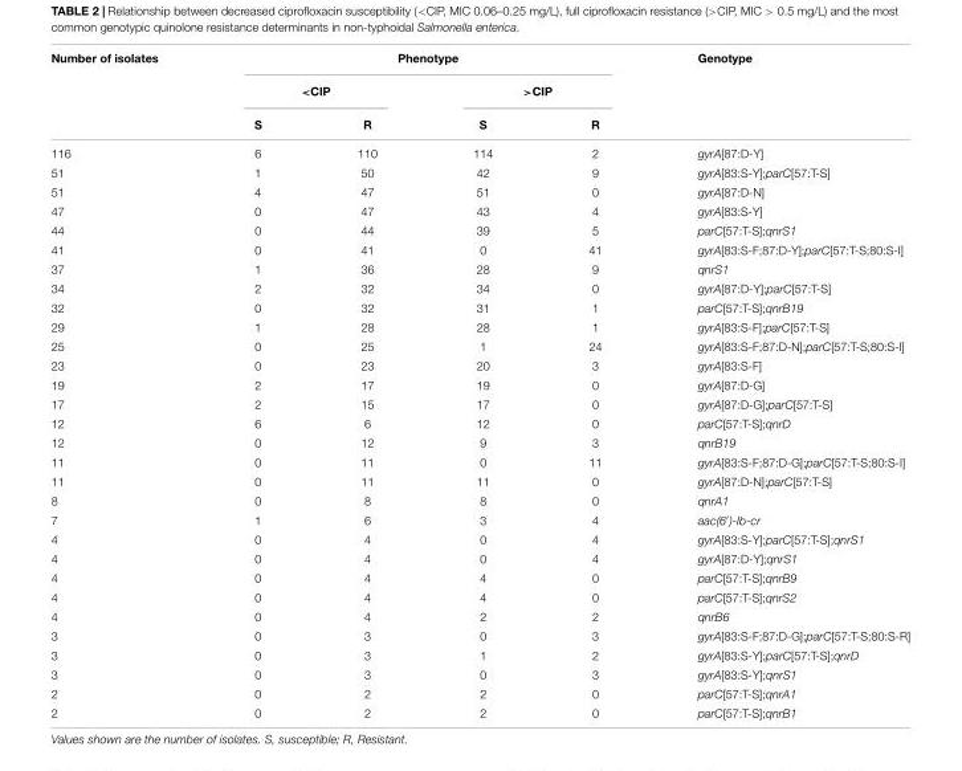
<table><thead><tr><td rowspan="3">Number of isolates</td><td colspan="4">Phenotype</td><td rowspan="3">Genotype</td></tr><tr><td colspan="2">&lt;CIP</td><td colspan="2">&gt;CIP</td></tr><tr><td>S</td><td>R</td><td>S</td><td>R</td></tr></thead><tbody><tr><td>116</td><td>6</td><td>110</td><td>114</td><td>2</td><td>gyrA[87:D-Y]</td></tr><tr><td>51</td><td>1</td><td>50</td><td>42</td><td>9</td><td>gyrA[83:S-Y];parC[57:T-S]</td></tr><tr><td>51</td><td>4</td><td>47</td><td>51</td><td>0</td><td>gyrA[87:D-N]</td></tr><tr><td>47</td><td>0</td><td>47</td><td>43</td><td>4</td><td>gyrA[83:S-Y]</td></tr><tr><td>44</td><td>0</td><td>44</td><td>39</td><td>5</td><td>parC[57:T-S];qnrS1</td></tr><tr><td>41</td><td>0</td><td>41</td><td>0</td><td>41</td><td>gyrA[83:S-F;87:D-Y];parC[57:T-S;80:S-I]</td></tr><tr><td>37</td><td>1</td><td>36</td><td>28</td><td>9</td><td>qnrS1</td></tr><tr><td>34</td><td>2</td><td>32</td><td>34</td><td>0</td><td>gyrA[87:D-Y];parC[57:T-S]</td></tr><tr><td>32</td><td>0</td><td>32</td><td>31</td><td>1</td><td>parC[57:T-S];qnrB19</td></tr><tr><td>29</td><td>1</td><td>28</td><td>28</td><td>1</td><td>gyrA[83:S-F];parC[57:T-S]</td></tr><tr><td>25</td><td>0</td><td>25</td><td>1</td><td>24</td><td>gyrA[83:S-F;87:D-N];parC[57:T-S;80:S-I]</td></tr><tr><td>23</td><td>0</td><td>23</td><td>20</td><td>3</td><td>gyrA[83:S-F]</td></tr><tr><td>19</td><td>2</td><td>17</td><td>19</td><td>0</td><td>gyrA[87:D-G]</td></tr><tr><td>17</td><td>2</td><td>15</td><td>17</td><td>0</td><td>gyrA[87:D-G];parC[57:T-S]</td></tr><tr><td>12</td><td>6</td><td>6</td><td>12</td><td>0</td><td>parC[57:T-S];qnrD</td></tr><tr><td>12</td><td>0</td><td>12</td><td>9</td><td>3</td><td>qnrB19</td></tr><tr><td>11</td><td>0</td><td>11</td><td>0</td><td>11</td><td>gyrA[83:S-F;87:D-G];parC[57:T-S;80:S-I]</td></tr><tr><td>11</td><td>0</td><td>11</td><td>11</td><td>0</td><td>gyrA[87:D-N];parC[57:T-S]</td></tr><tr><td>8</td><td>0</td><td>8</td><td>8</td><td>0</td><td>qnrA1</td></tr><tr><td>7</td><td>1</td><td>6</td><td>3</td><td>4</td><td>aac(6′)-Ib-cr</td></tr><tr><td>4</td><td>0</td><td>4</td><td>0</td><td>4</td><td>gyrA[83:S-Y];parC[57:T-S];qnrS1</td></tr><tr><td>4</td><td>0</td><td>4</td><td>0</td><td>4</td><td>gyrA[87:D-Y];qnrS1</td></tr><tr><td>4</td><td>0</td><td>4</td><td>4</td><td>0</td><td>parC[57:T-S];qnrB9</td></tr><tr><td>4</td><td>0</td><td>4</td><td>4</td><td>0</td><td>parC[57:T-S];qnrS2</td></tr><tr><td>4</td><td>0</td><td>4</td><td>2</td><td>2</td><td>qnrB6</td></tr><tr><td>3</td><td>0</td><td>3</td><td>0</td><td>3</td><td>gyrA[83:S-F;87:D-G];parC[57:T-S;80:S-R]</td></tr><tr><td>3</td><td>0</td><td>3</td><td>1</td><td>2</td><td>gyrA[83:S-Y];parC[57:T-S];qnrD</td></tr><tr><td>3</td><td>0</td><td>3</td><td>0</td><td>3</td><td>gyrA[83:S-Y];qnrS1</td></tr><tr><td>2</td><td>0</td><td>2</td><td>2</td><td>0</td><td>parC[57:T-S];qnrA1</td></tr><tr><td>2</td><td>0</td><td>2</td><td>2</td><td>0</td><td>parC[57:T-S];qnrB1</td></tr></tbody></table>